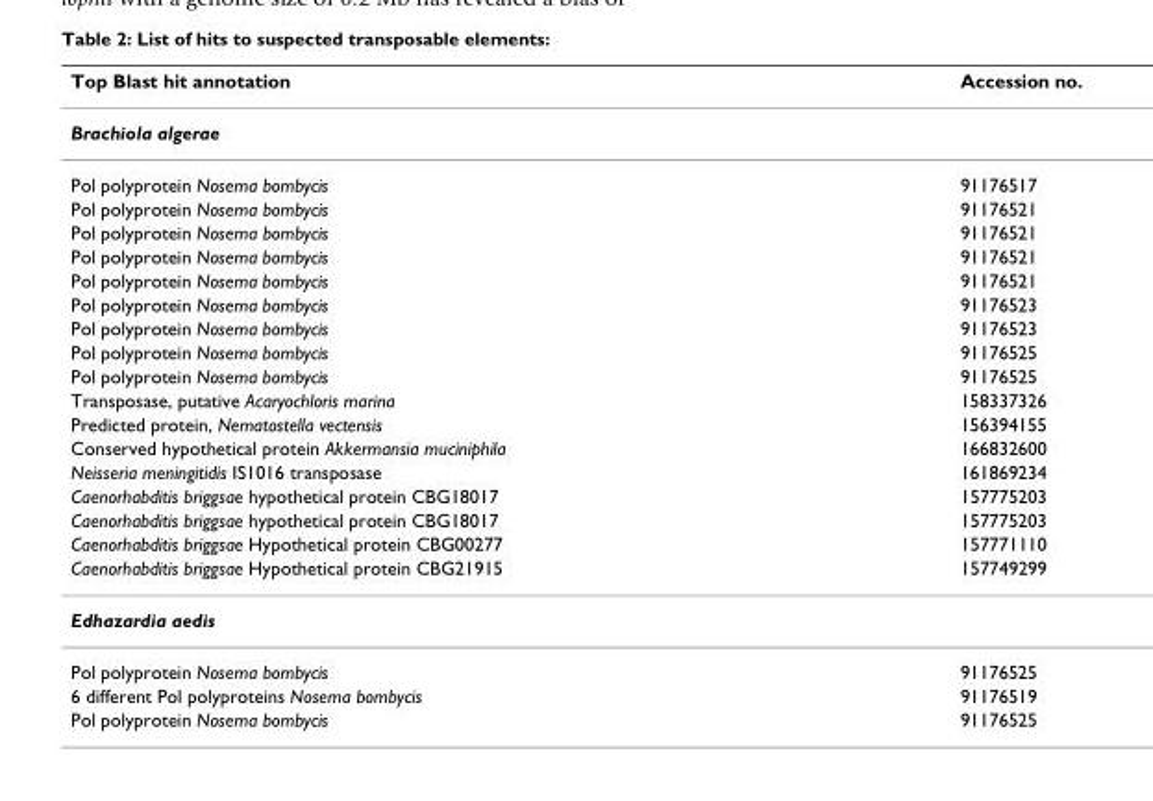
<table><thead><tr><td>Top Blast hit annotation</td><td>Accession no.</td></tr></thead><tbody><tr><td colspan="2">Brachiola algerae</td></tr><tr><td>Pol polyprotein Nosema bombycis</td><td>91176517</td></tr><tr><td>Pol polyprotein Nosema bombycis</td><td>91176521</td></tr><tr><td>Pol polyprotein Nosema bombycis</td><td>91176521</td></tr><tr><td>Pol polyprotein Nosema bombycis</td><td>91176521</td></tr><tr><td>Pol polyprotein Nosema bombycis</td><td>91176521</td></tr><tr><td>Pol polyprotein Nosema bombycis</td><td>91176523</td></tr><tr><td>Pol polyprotein Nosema bombycis</td><td>91176523</td></tr><tr><td>Pol polyprotein Nosema bombycis</td><td>91176525</td></tr><tr><td>Pol polyprotein Nosema bombycis</td><td>91176525</td></tr><tr><td>Transposase, putative Acaryochloris marina</td><td>158337326</td></tr><tr><td>Predicted protein, Nematostella vectensis</td><td>156394155</td></tr><tr><td>Conserved hypothetical protein Akkermansia muciniphila</td><td>166832600</td></tr><tr><td>Neisseria meningitidis IS1016 transposase</td><td>161869234</td></tr><tr><td>Caenorhabditis briggsae hypothetical protein CBG18017</td><td>157775203</td></tr><tr><td>Caenorhabditis briggsae hypothetical protein CBG18017</td><td>157775203</td></tr><tr><td>Caenorhabditis briggsae Hypothetical protein CBG00277</td><td>157771110</td></tr><tr><td>Caenorhabditis briggsae Hypothetical protein CBG21915</td><td>157749299</td></tr><tr><td colspan="2">Edhazardia aedis</td></tr><tr><td>Pol polyprotein Nosema bombycis</td><td>91176525</td></tr><tr><td>6 different Pol polyproteins Nosema bombycis</td><td>91176519</td></tr><tr><td>Pol polyprotein Nosema bombycis</td><td>91176525</td></tr></tbody></table>